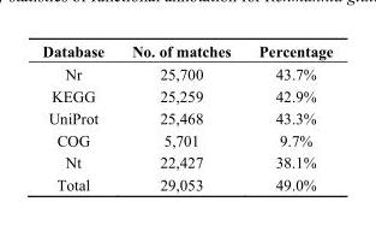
<table><thead><tr><td>Database</td><td>No. of matches</td><td>Percentage</td></tr></thead><tbody><tr><td>Nr</td><td>25,700</td><td>43.7%</td></tr><tr><td>KEGG</td><td>25,259</td><td>42.9%</td></tr><tr><td>UniProt</td><td>25,468</td><td>43.3%</td></tr><tr><td>COG</td><td>5,701</td><td>9.7%</td></tr><tr><td>Nt</td><td>22,427</td><td>38.1%</td></tr><tr><td>Total</td><td>29,053</td><td>49.0%</td></tr></tbody></table>